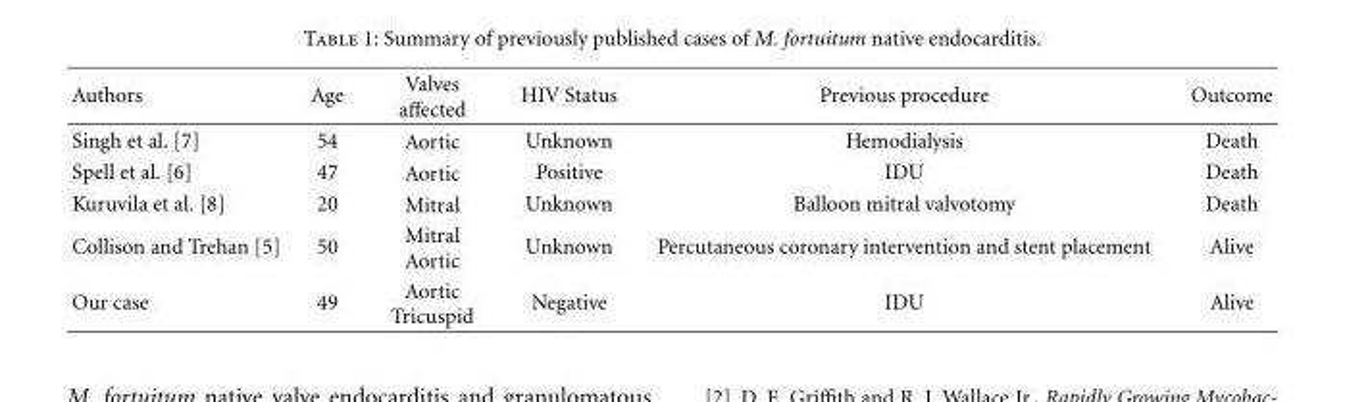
<table><thead><tr><td>Authors</td><td>Age</td><td>Valves affected</td><td>HIV Status</td><td>Previous procedure</td><td>Outcome</td></tr></thead><tbody><tr><td>Singh et al. [7]</td><td>54</td><td>Aortic</td><td>Unknown</td><td>Hemodialysis</td><td>Death</td></tr><tr><td>Spell et al. [6]</td><td>47</td><td>Aortic</td><td>Positive</td><td>IDU</td><td>Death</td></tr><tr><td>Kuruvila et al. [8]</td><td>20</td><td>Mitral</td><td>Unknown</td><td>Balloon mitral valvotomy</td><td>Death</td></tr><tr><td>Collison and Trehan [5]</td><td>50</td><td>Mitral Aortic</td><td>Unknown</td><td>Percutaneous coronary intervention and stent placement</td><td>Alive</td></tr><tr><td>Our case</td><td>49</td><td>Aortic Tricuspid</td><td>Negative</td><td>IDU</td><td>Alive</td></tr></tbody></table>